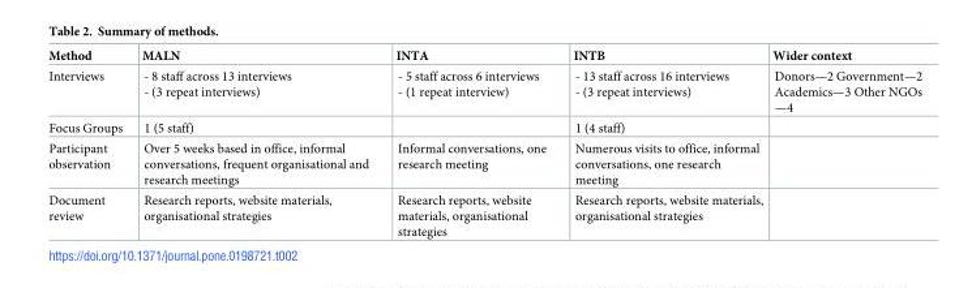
<table><thead><tr><td>Method</td><td>MALN</td><td>INTA</td><td>INTB</td><td>Wider context</td></tr></thead><tbody><tr><td>Interviews</td><td>- 8 staff across 13 interviews - (3 repeat interviews)</td><td>- 5 staff across 6 interviews - (1 repeat interview)</td><td>- 13 staff across 16 interviews - (3 repeat interviews)</td><td>Donors—2 Government—2 Academics—3 Other NGOs —4</td></tr><tr><td>Focus Groups</td><td>1 (5 staff)</td><td></td><td>1 (4 staff)</td><td></td></tr><tr><td>Participant observation</td><td>Over 5 weeks based in office, informal conversations, frequent organisational and research meetings</td><td>Informal conversations, one research meeting</td><td>Numerous visits to office, informal conversations, one research meeting</td><td></td></tr><tr><td>Document review</td><td>Research reports, website materials, organisational strategies</td><td>Research reports, website materials, organisational strategies</td><td>Research reports, website materials, organisational strategies</td><td></td></tr></tbody></table>